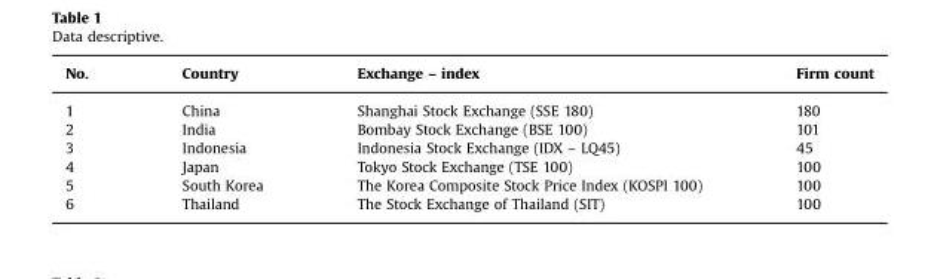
<table><thead><tr><td>No.</td><td>Country</td><td>Exchange – index</td><td>Firm count</td></tr></thead><tbody><tr><td>1</td><td>China</td><td>Shanghai Stock Exchange (SSE 180)</td><td>180</td></tr><tr><td>2</td><td>India</td><td>Bombay Stock Exchange (BSE 100)</td><td>101</td></tr><tr><td>3</td><td>Indonesia</td><td>Indonesia Stock Exchange (IDX – LQ45)</td><td>45</td></tr><tr><td>4</td><td>Japan</td><td>Tokyo Stock Exchange (TSE 100)</td><td>100</td></tr><tr><td>5</td><td>South Korea</td><td>The Korea Composite Stock Price Index (KOSPI 100)</td><td>100</td></tr><tr><td>6</td><td>Thailand</td><td>The Stock Exchange of Thailand (SIT)</td><td>100</td></tr></tbody></table>